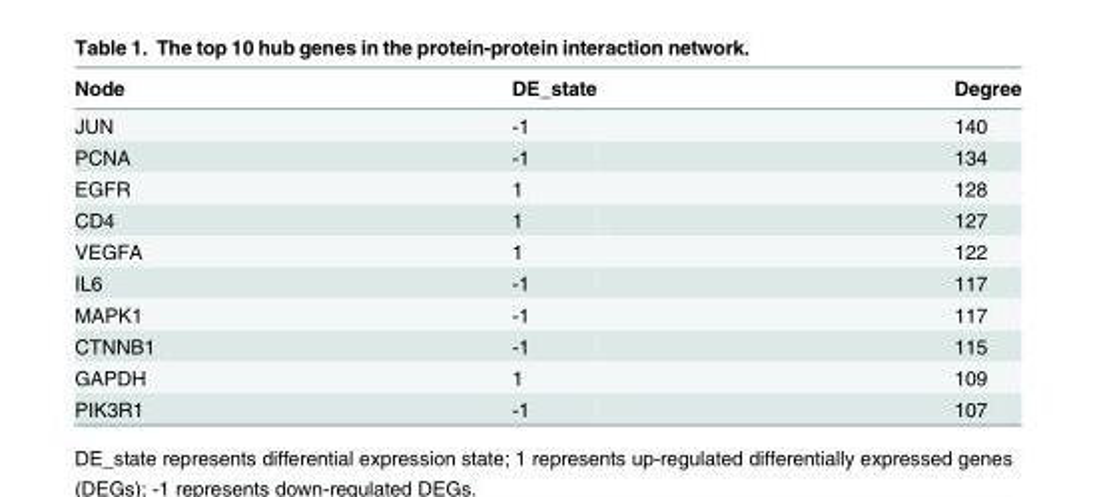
<table><thead><tr><td>Node</td><td>DE_state</td><td>Degree</td></tr></thead><tbody><tr><td>JUN</td><td>-1</td><td>140</td></tr><tr><td>PCNA</td><td>-1</td><td>134</td></tr><tr><td>EGFR</td><td>1</td><td>128</td></tr><tr><td>CD4</td><td>1</td><td>127</td></tr><tr><td>VEGFA</td><td>1</td><td>122</td></tr><tr><td>IL6</td><td>-1</td><td>117</td></tr><tr><td>MAPK1</td><td>-1</td><td>117</td></tr><tr><td>CTNNB1</td><td>-1</td><td>115</td></tr><tr><td>GAPDH</td><td>1</td><td>109</td></tr><tr><td>PIK3R1</td><td>-1</td><td>107</td></tr></tbody></table>